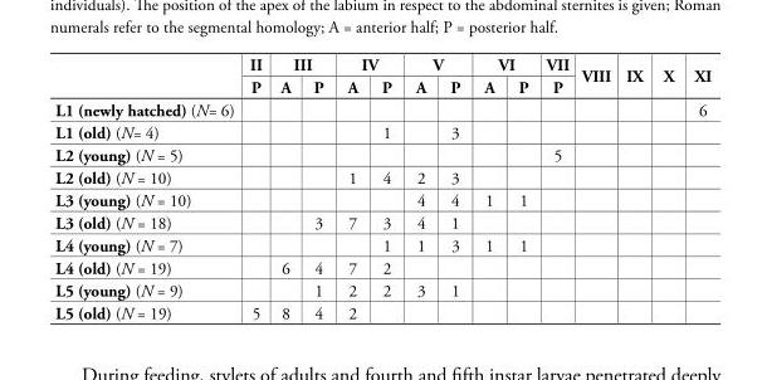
<table><thead><tr><td rowspan="2"></td><td rowspan="2">II P</td><td colspan="2">III</td><td colspan="2">IV</td><td colspan="2">V</td><td colspan="2">VI</td><td rowspan="2">VII P</td><td rowspan="2">VIII</td><td rowspan="2">IX</td><td rowspan="2">X</td><td rowspan="2">XI</td></tr><tr><td>A</td><td>P</td><td>A</td><td>P</td><td>A</td><td>P</td><td>A</td><td>P</td></tr></thead><tbody><tr><td>L1 (newly hatched) (N= 6)</td><td></td><td></td><td></td><td></td><td></td><td></td><td></td><td></td><td></td><td></td><td></td><td></td><td></td><td>6</td></tr><tr><td>L1 (old) (N= 4)</td><td></td><td></td><td></td><td></td><td>1</td><td></td><td>3</td><td></td><td></td><td></td><td></td><td></td><td></td><td></td></tr><tr><td>L2 (young) (N = 5)</td><td></td><td></td><td></td><td></td><td></td><td></td><td></td><td></td><td></td><td>5</td><td></td><td></td><td></td><td></td></tr><tr><td>L2 (old) (N = 10)</td><td></td><td></td><td></td><td>1</td><td>4</td><td>2</td><td>3</td><td></td><td></td><td></td><td></td><td></td><td></td><td></td></tr><tr><td>L3 (young) (N = 10)</td><td></td><td></td><td></td><td></td><td></td><td>4</td><td>4</td><td>1</td><td>1</td><td></td><td></td><td></td><td></td><td></td></tr><tr><td>L3 (old) (N = 18)</td><td></td><td></td><td>3</td><td>7</td><td>3</td><td>4</td><td>1</td><td></td><td></td><td></td><td></td><td></td><td></td><td></td></tr><tr><td>L4 (young) (N = 7)</td><td></td><td></td><td></td><td></td><td>1</td><td>1</td><td>3</td><td>1</td><td>1</td><td></td><td></td><td></td><td></td><td></td></tr><tr><td>L4 (old) (N = 19)</td><td></td><td>6</td><td>4</td><td>7</td><td>2</td><td></td><td></td><td></td><td></td><td></td><td></td><td></td><td></td><td></td></tr><tr><td>L5 (young) (N = 9)</td><td></td><td></td><td>1</td><td>2</td><td>2</td><td>3</td><td>1</td><td></td><td></td><td></td><td></td><td></td><td></td><td></td></tr><tr><td>L5 (old) (N = 19)</td><td>5</td><td>8</td><td>4</td><td>2</td><td></td><td></td><td></td><td></td><td></td><td></td><td></td><td></td><td></td><td></td></tr></tbody></table>